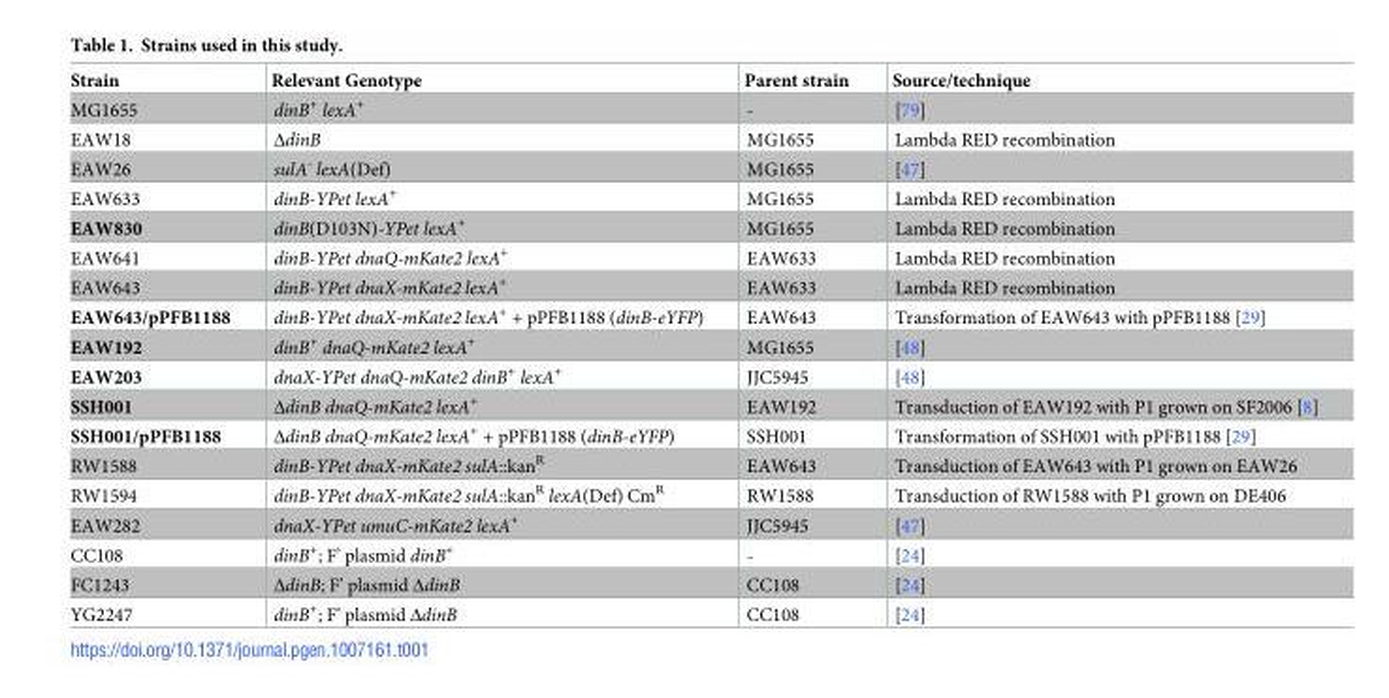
<table><thead><tr><td>Strain</td><td>Relevant Genotype</td><td>Parent strain</td><td>Source/technique</td></tr></thead><tbody><tr><td>MG1655</td><td>dinB<sup>+</sup> lexA<sup>+</sup></td><td>-</td><td>[79]</td></tr><tr><td>EAW18</td><td>ΔdinB</td><td>MG1655</td><td>Lambda RED recombination</td></tr><tr><td>EAW26</td><td>sulA<sup>-</sup> lexA(Def)</td><td>MG1655</td><td>[47]</td></tr><tr><td>EAW633</td><td>dinB-YPet lexA<sup>+</sup></td><td>MG1655</td><td>Lambda RED recombination</td></tr><tr><td>EAW830</td><td>dinB(D103N)-YPet lexA<sup>+</sup></td><td>MG1655</td><td>Lambda RED recombination</td></tr><tr><td>EAW641</td><td>dinB-YPet dnaQ-mKate2 lexA<sup>+</sup></td><td>EAW633</td><td>Lambda RED recombination</td></tr><tr><td>EAW643</td><td>dinB-YPet dnaX-mKate2 lexA<sup>+</sup></td><td>EAW633</td><td>Lambda RED recombination</td></tr><tr><td>EAW643/pPFB1188</td><td>dinB-YPet dnaX-mKate2 lexA<sup>+</sup> + pPFB1188 (dinB-eYFP)</td><td>EAW643</td><td>Transformation of EAW643 with pPFB1188 [29]</td></tr><tr><td>EAW192</td><td>dinB<sup>+</sup> dnaQ-mKate2 lexA<sup>+</sup></td><td>MG1655</td><td>[48]</td></tr><tr><td>EAW203</td><td>dnaX-YPet dnaQ-mKate2 dinB<sup>+</sup> lexA<sup>+</sup></td><td>JJC5945</td><td>[48]</td></tr><tr><td>SSH001</td><td>ΔdinB dnaQ-mKate2 lexA<sup>+</sup></td><td>EAW192</td><td>Transduction of EAW192 with P1 grown on SF2006 [8]</td></tr><tr><td>SSH001/pPFB1188</td><td>ΔdinB dnaQ-mKate2 lexA<sup>+</sup> + pPFB1188 (dinB-eYFP)</td><td>SSH001</td><td>Transformation of SSH001 with pPFB1188 [29]</td></tr><tr><td>RW1588</td><td>dinB-YPet dnaX-mKate2 sulA::kan<sup>R</sup></td><td>EAW643</td><td>Transduction of EAW643 with P1 grown on EAW26</td></tr><tr><td>RW1594</td><td>dinB-YPet dnaX-mKate2 sulA::kan<sup>R</sup> lexA(Def) Cm<sup>R</sup></td><td>RW1588</td><td>Transduction of RW1588 with P1 grown on DE406</td></tr><tr><td>EAW282</td><td>dnaX-YPet umuC-mKate2 lexA<sup>+</sup></td><td>JJC5945</td><td>[47]</td></tr><tr><td>CC108</td><td>dinB<sup>+</sup>; F’ plasmid dinB<sup>+</sup></td><td>-</td><td>[24]</td></tr><tr><td>FC1243</td><td>ΔdinB; F’ plasmid ΔdinB</td><td>CC108</td><td>[24]</td></tr><tr><td>YG2247</td><td>dinB<sup>+</sup>; F’ plasmid ΔdinB</td><td>CC108</td><td>[24]</td></tr></tbody></table>